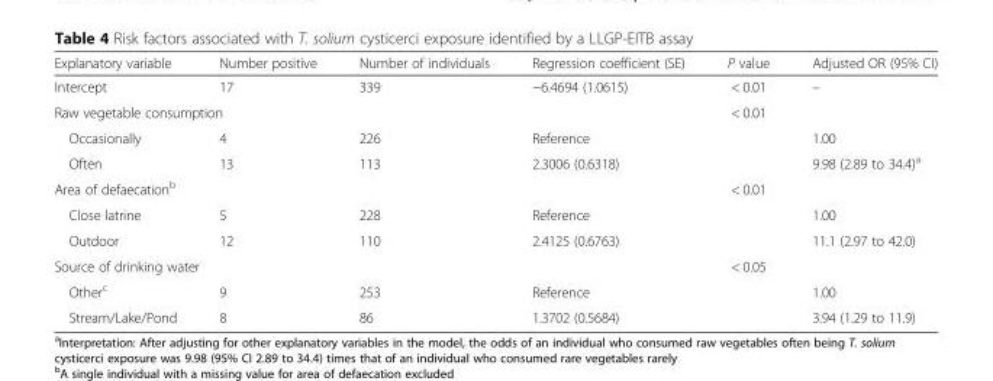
<table><thead><tr><td>Explanatory variable</td><td>Number positive</td><td>Number of individuals</td><td>Regression coefficient (SE)</td><td>P value</td><td>Adjusted OR (95% CI)</td></tr></thead><tbody><tr><td>Intercept</td><td>17</td><td>339</td><td>−6.4694 (1.0615)</td><td>&lt; 0.01</td><td>–</td></tr><tr><td colspan="4">Raw vegetable consumption</td><td>&lt; 0.01</td><td></td></tr><tr><td>Occasionally</td><td>4</td><td>226</td><td>Reference</td><td></td><td>1.00</td></tr><tr><td>Often</td><td>13</td><td>113</td><td>2.3006 (0.6318)</td><td></td><td>9.98 (2.89 to 34.4)<sup>a</sup></td></tr><tr><td colspan="4">Area of defaecation<sup>b</sup></td><td>&lt; 0.01</td><td></td></tr><tr><td>Close latrine</td><td>5</td><td>228</td><td>Reference</td><td></td><td>1.00</td></tr><tr><td>Outdoor</td><td>12</td><td>110</td><td>2.4125 (0.6763)</td><td></td><td>11.1 (2.97 to 42.0)</td></tr><tr><td colspan="4">Source of drinking water</td><td>&lt; 0.05</td><td></td></tr><tr><td>Other<sup>c</sup></td><td>9</td><td>253</td><td>Reference</td><td></td><td>1.00</td></tr><tr><td>Stream/Lake/Pond</td><td>8</td><td>86</td><td>1.3702 (0.5684)</td><td></td><td>3.94 (1.29 to 11.9)</td></tr></tbody></table>